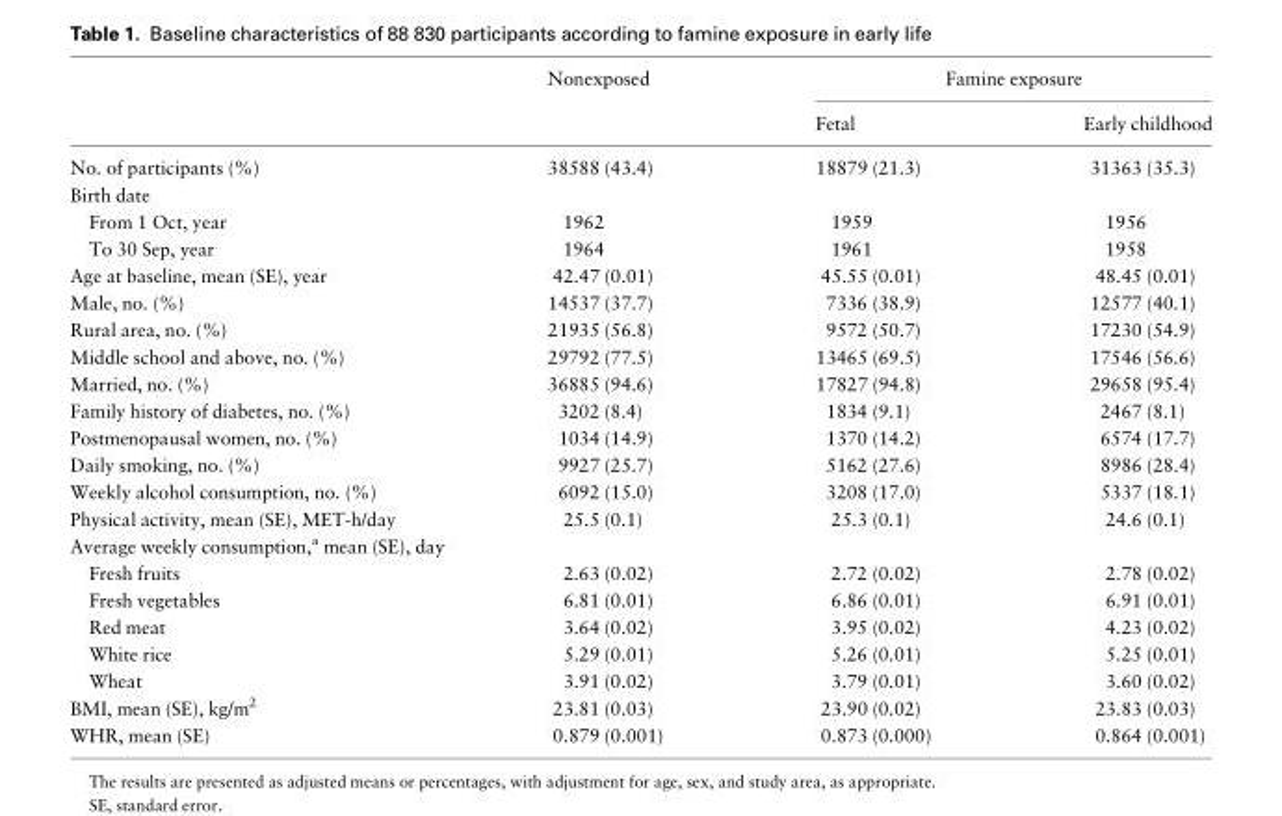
<table><thead><tr><td rowspan="2"></td><td rowspan="2">Nonexposed</td><td colspan="2">Famine exposure</td></tr><tr><td>Fetal</td><td>Early childhood</td></tr></thead><tbody><tr><td>No. of participants (%)</td><td>38588 (43.4)</td><td>18879 (21.3)</td><td>31363 (35.3)</td></tr><tr><td colspan="4">Birth date</td></tr><tr><td>From 1 Oct, year</td><td>1962</td><td>1959</td><td>1956</td></tr><tr><td>To 30 Sep, year</td><td>1964</td><td>1961</td><td>1958</td></tr><tr><td>Age at baseline, mean (SE), year</td><td>42.47 (0.01)</td><td>45.55 (0.01)</td><td>48.45 (0.01)</td></tr><tr><td>Male, no. (%)</td><td>14537 (37.7)</td><td>7336 (38.9)</td><td>12577 (40.1)</td></tr><tr><td>Rural area, no. (%)</td><td>21935 (56.8)</td><td>9572 (50.7)</td><td>17230 (54.9)</td></tr><tr><td>Middle school and above, no. (%)</td><td>29792 (77.5)</td><td>13465 (69.5)</td><td>17546 (56.6)</td></tr><tr><td>Married, no. (%)</td><td>36885 (94.6)</td><td>17827 (94.8)</td><td>29658 (95.4)</td></tr><tr><td>Family history of diabetes, no. (%)</td><td>3202 (8.4)</td><td>1834 (9.1)</td><td>2467 (8.1)</td></tr><tr><td>Postmenopausal women, no. (%)</td><td>1034 (14.9)</td><td>1370 (14.2)</td><td>6574 (17.7)</td></tr><tr><td>Daily smoking, no. (%)</td><td>9927 (25.7)</td><td>5162 (27.6)</td><td>8986 (28.4)</td></tr><tr><td>Weekly alcohol consumption, no. (%)</td><td>6092 (15.0)</td><td>3208 (17.0)</td><td>5337 (18.1)</td></tr><tr><td>Physical activity, mean (SE), MET-h/day</td><td>25.5 (0.1)</td><td>25.3 (0.1)</td><td>24.6 (0.1)</td></tr><tr><td colspan="4">Average weekly consumption,<sup>a</sup> mean (SE), day</td></tr><tr><td>Fresh fruits</td><td>2.63 (0.02)</td><td>2.72 (0.02)</td><td>2.78 (0.02)</td></tr><tr><td>Fresh vegetables</td><td>6.81 (0.01)</td><td>6.86 (0.01)</td><td>6.91 (0.01)</td></tr><tr><td>Red meat</td><td>3.64 (0.02)</td><td>3.95 (0.02)</td><td>4.23 (0.02)</td></tr><tr><td>White rice</td><td>5.29 (0.01)</td><td>5.26 (0.01)</td><td>5.25 (0.01)</td></tr><tr><td>Wheat</td><td>3.91 (0.02)</td><td>3.79 (0.01)</td><td>3.60 (0.02)</td></tr><tr><td>BMI, mean (SE), kg/m<sup>2</sup></td><td>23.81 (0.03)</td><td>23.90 (0.02)</td><td>23.83 (0.03)</td></tr><tr><td>WHR, mean (SE)</td><td>0.879 (0.001)</td><td>0.873 (0.000)</td><td>0.864 (0.001)</td></tr></tbody></table>